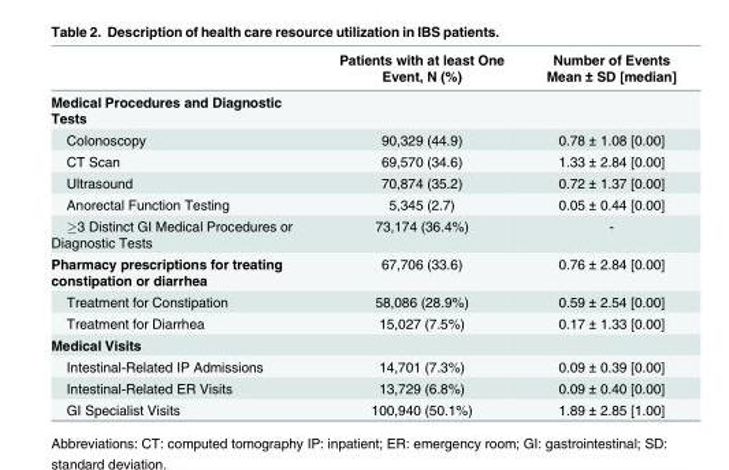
<table><thead><tr><td></td><td>Patients with at least One Event, N (%)</td><td>Number of Events Mean ± SD [median]</td></tr></thead><tbody><tr><td colspan="3">Medical Procedures and Diagnostic Tests</td></tr><tr><td>Colonoscopy</td><td>90,329 (44.9)</td><td>0.78 ± 1.08 [0.00]</td></tr><tr><td>CT Scan</td><td>69,570 (34.6)</td><td>1.33 ± 2.84 [0.00]</td></tr><tr><td>Ultrasound</td><td>70,874 (35.2)</td><td>0.72 ± 1.37 [0.00]</td></tr><tr><td>Anorectal Function Testing</td><td>5,345 (2.7)</td><td>0.05 ± 0.44 [0.00]</td></tr><tr><td>≥3 Distinct GI Medical Procedures or Diagnostic Tests</td><td>73,174 (36.4%)</td><td>-</td></tr><tr><td>Pharmacy prescriptions for treating constipation or diarrhea</td><td>67,706 (33.6)</td><td>0.76 ± 2.84 [0.00]</td></tr><tr><td>Treatment for Constipation</td><td>58,086 (28.9%)</td><td>0.59 ± 2.54 [0.00]</td></tr><tr><td>Treatment for Diarrhea</td><td>15,027 (7.5%)</td><td>0.17 ± 1.33 [0.00]</td></tr><tr><td colspan="3">Medical Visits</td></tr><tr><td>Intestinal-Related IP Admissions</td><td>14,701 (7.3%)</td><td>0.09 ± 0.39 [0.00]</td></tr><tr><td>Intestinal-Related ER Visits</td><td>13,729 (6.8%)</td><td>0.09 ± 0.40 [0.00]</td></tr><tr><td>GI Specialist Visits</td><td>100,940 (50.1%)</td><td>1.89 ± 2.85 [1.00]</td></tr></tbody></table>